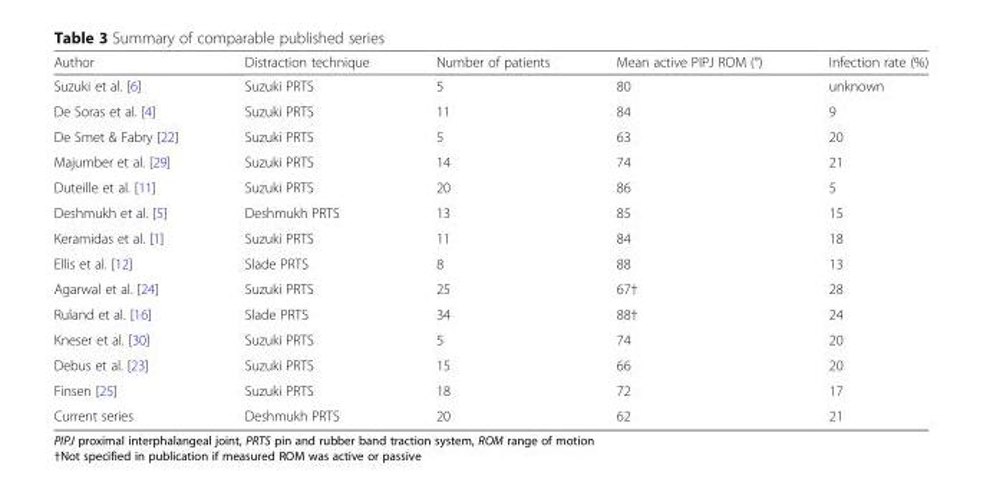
<table><thead><tr><td>Author</td><td>Distraction technique</td><td>Number of patients</td><td>Mean active PIPJ ROM (°)</td><td>Infection rate (%)</td></tr></thead><tbody><tr><td>Suzuki et al. [6]</td><td>Suzuki PRTS</td><td>5</td><td>80</td><td>unknown</td></tr><tr><td>De Soras et al. [4]</td><td>Suzuki PRTS</td><td>11</td><td>84</td><td>9</td></tr><tr><td>De Smet &amp; Fabry [22]</td><td>Suzuki PRTS</td><td>5</td><td>63</td><td>20</td></tr><tr><td>Majumber et al. [29]</td><td>Suzuki PRTS</td><td>14</td><td>74</td><td>21</td></tr><tr><td>Duteille et al. [11]</td><td>Suzuki PRTS</td><td>20</td><td>86</td><td>5</td></tr><tr><td>Deshmukh et al. [5]</td><td>Deshmukh PRTS</td><td>13</td><td>85</td><td>15</td></tr><tr><td>Keramidas et al. [1]</td><td>Suzuki PRTS</td><td>11</td><td>84</td><td>18</td></tr><tr><td>Ellis et al. [12]</td><td>Slade PRTS</td><td>8</td><td>88</td><td>13</td></tr><tr><td>Agarwal et al. [24]</td><td>Suzuki PRTS</td><td>25</td><td>67†</td><td>28</td></tr><tr><td>Ruland et al. [16]</td><td>Slade PRTS</td><td>34</td><td>88†</td><td>24</td></tr><tr><td>Kneser et al. [30]</td><td>Suzuki PRTS</td><td>5</td><td>74</td><td>20</td></tr><tr><td>Debus et al. [23]</td><td>Suzuki PRTS</td><td>15</td><td>66</td><td>20</td></tr><tr><td>Finsen [25]</td><td>Suzuki PRTS</td><td>18</td><td>72</td><td>17</td></tr><tr><td>Current series</td><td>Deshmukh PRTS</td><td>20</td><td>62</td><td>21</td></tr></tbody></table>